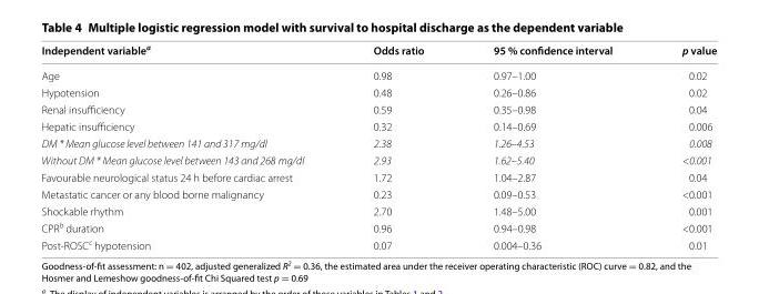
<table><thead><tr><td>Independent variable<sup>a</sup></td><td>Odds ratio</td><td>95 % confidence interval</td><td>p value</td></tr></thead><tbody><tr><td>Age</td><td>0.98</td><td>0.97–1.00</td><td>0.02</td></tr><tr><td>Hypotension</td><td>0.48</td><td>0.26–0.86</td><td>0.02</td></tr><tr><td>Renal insufficiency</td><td>0.59</td><td>0.35–0.98</td><td>0.04</td></tr><tr><td>Hepatic insufficiency</td><td>0.32</td><td>0.14–0.69</td><td>0.006</td></tr><tr><td>DM * Mean glucose level between 141 and 317 mg/dl</td><td>2.38</td><td>1.26–4.53</td><td>0.008</td></tr><tr><td>Without DM * Mean glucose level between 143 and 268 mg/dl</td><td>2.93</td><td>1.62–5.40</td><td>&lt;0.001</td></tr><tr><td>Favourable neurological status 24 h before cardiac arrest</td><td>1.72</td><td>1.04–2.87</td><td>0.04</td></tr><tr><td>Metastatic cancer or any blood borne malignancy</td><td>0.23</td><td>0.09–0.53</td><td>&lt;0.001</td></tr><tr><td>Shockable rhythm</td><td>2.70</td><td>1.48–5.00</td><td>0.001</td></tr><tr><td>CPR<sup>b</sup> duration</td><td>0.96</td><td>0.94–0.98</td><td>&lt;0.001</td></tr><tr><td>Post‑ROSC<sup>c</sup> hypotension</td><td>0.07</td><td>0.004–0.36</td><td>0.01</td></tr></tbody></table>